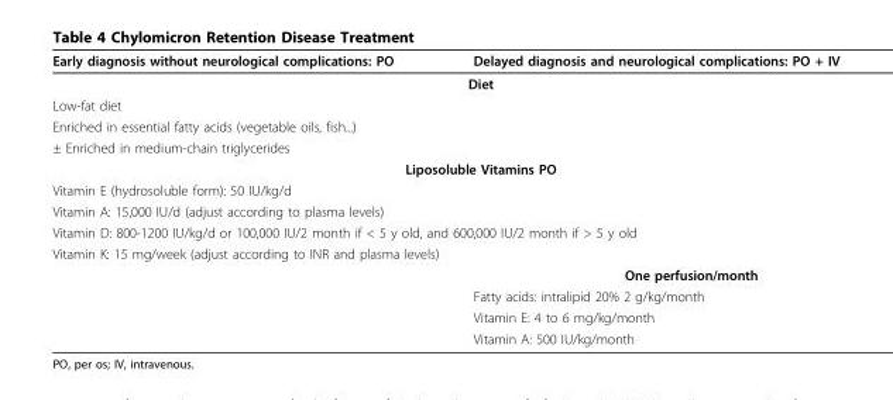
<table><thead><tr><td>Early diagnosis without neurological complications: PO</td><td>Delayed diagnosis and neurological complications: PO + IV</td></tr></thead><tbody><tr><td colspan="2">Diet</td></tr><tr><td colspan="2">Low-fat diet</td></tr><tr><td colspan="2">Enriched in essential fatty acids (vegetable oils, fish...)</td></tr><tr><td colspan="2">± Enriched in medium-chain triglycerides</td></tr><tr><td colspan="2">Liposoluble Vitamins PO</td></tr><tr><td colspan="2">Vitamin E (hydrosoluble form): 50 IU/kg/d</td></tr><tr><td colspan="2">Vitamin A: 15,000 IU/d (adjust according to plasma levels)</td></tr><tr><td colspan="2">Vitamin D: 800-1200 IU/kg/d or 100,000 IU/2 month if &lt; 5 y old, and 600,000 IU/2 month if &gt; 5 y old</td></tr><tr><td colspan="2">Vitamin K: 15 mg/week (adjust according to INR and plasma levels)</td></tr><tr><td></td><td>One perfusion/month</td></tr><tr><td></td><td>Fatty acids: intralipid 20% 2 g/kg/month</td></tr><tr><td></td><td>Vitamin E: 4 to 6 mg/kg/month</td></tr><tr><td></td><td>Vitamin A: 500 IU/kg/month</td></tr></tbody></table>